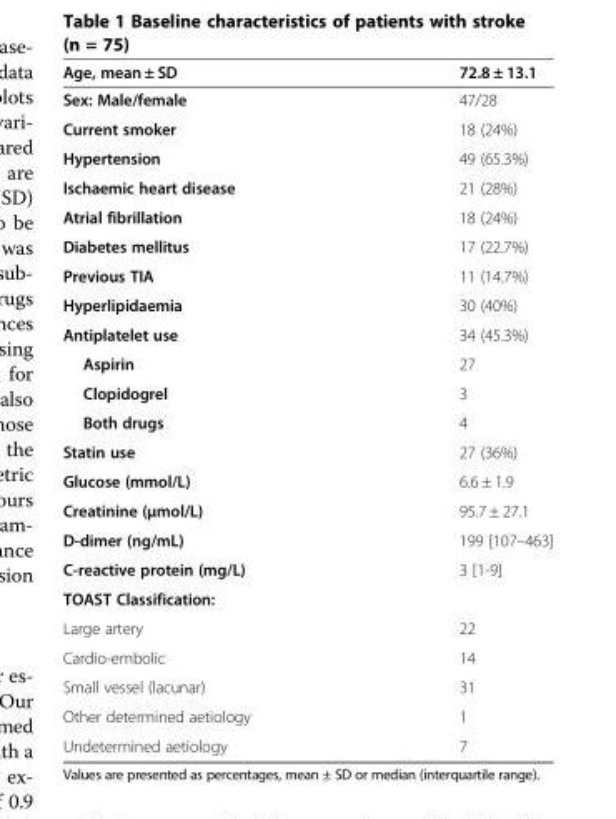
<table><thead><tr><td>Age, mean ± SD</td><td>72.8 ± 13.1</td></tr></thead><tbody><tr><td>Sex: Male/female</td><td>47/28</td></tr><tr><td>Current smoker</td><td>18 (24%)</td></tr><tr><td>Hypertension</td><td>49 (65.3%)</td></tr><tr><td>Ischaemic heart disease</td><td>21 (28%)</td></tr><tr><td>Atrial fibrillation</td><td>18 (24%)</td></tr><tr><td>Diabetes mellitus</td><td>17 (22.7%)</td></tr><tr><td>Previous TIA</td><td>11 (14.7%)</td></tr><tr><td>Hyperlipidaemia</td><td>30 (40%)</td></tr><tr><td>Antiplatelet use</td><td>34 (45.3%)</td></tr><tr><td>Aspirin</td><td>27</td></tr><tr><td>Clopidogrel</td><td>3</td></tr><tr><td>Both drugs</td><td>4</td></tr><tr><td>Statin use</td><td>27 (36%)</td></tr><tr><td>Glucose (mmol/L)</td><td>6.6 ± 1.9</td></tr><tr><td>Creatinine (μmol/L)</td><td>95.7 ± 27.1</td></tr><tr><td>D-dimer (ng/mL)</td><td>199 [107–463]</td></tr><tr><td>C-reactive protein (mg/L)</td><td>3 [1-9]</td></tr><tr><td colspan="2">TOAST Classification:</td></tr><tr><td>Large artery</td><td>22</td></tr><tr><td>Cardio-embolic</td><td>14</td></tr><tr><td>Small vessel (lacunar)</td><td>31</td></tr><tr><td>Other determined aetiology</td><td>1</td></tr><tr><td>Undetermined aetiology</td><td>7</td></tr></tbody></table>